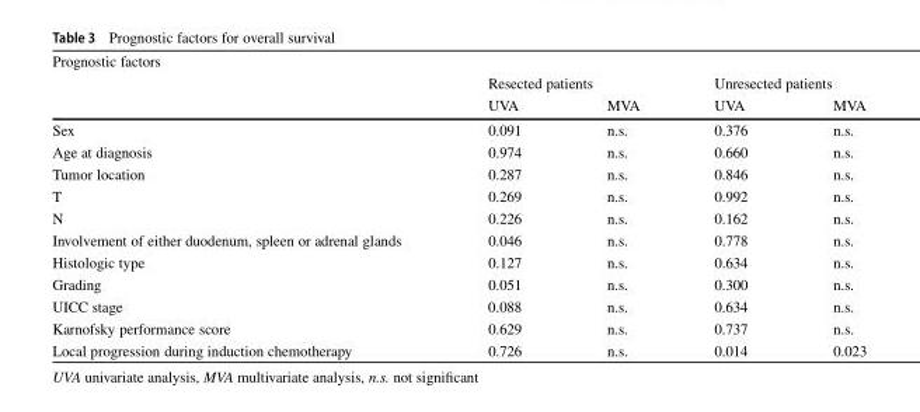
<table><thead><tr><td colspan="5">Prognostic factors</td></tr><tr><td rowspan="2"></td><td colspan="2">Resected patients</td><td colspan="2">Unresected patients</td></tr><tr><td>UVA</td><td>MVA</td><td>UVA</td><td>MVA</td></tr></thead><tbody><tr><td>Sex</td><td>0.091</td><td>n.s.</td><td>0.376</td><td>n.s.</td></tr><tr><td>Age at diagnosis</td><td>0.974</td><td>n.s.</td><td>0.660</td><td>n.s.</td></tr><tr><td>Tumor location</td><td>0.287</td><td>n.s.</td><td>0.846</td><td>n.s.</td></tr><tr><td>T</td><td>0.269</td><td>n.s.</td><td>0.992</td><td>n.s.</td></tr><tr><td>N</td><td>0.226</td><td>n.s.</td><td>0.162</td><td>n.s.</td></tr><tr><td>Involvement of either duodenum, spleen or adrenal glands</td><td>0.046</td><td>n.s.</td><td>0.778</td><td>n.s.</td></tr><tr><td>Histologic type</td><td>0.127</td><td>n.s.</td><td>0.634</td><td>n.s.</td></tr><tr><td>Grading</td><td>0.051</td><td>n.s.</td><td>0.300</td><td>n.s.</td></tr><tr><td>UICC stage</td><td>0.088</td><td>n.s.</td><td>0.634</td><td>n.s.</td></tr><tr><td>Karnofsky performance score</td><td>0.629</td><td>n.s.</td><td>0.737</td><td>n.s.</td></tr><tr><td>Local progression during induction chemotherapy</td><td>0.726</td><td>n.s.</td><td>0.014</td><td>0.023</td></tr></tbody></table>